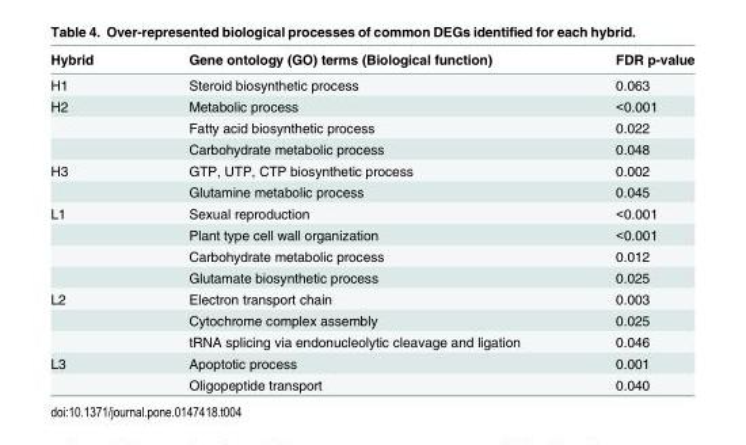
<table><thead><tr><td>Hybrid</td><td>Gene ontology (GO) terms (Biological function)</td><td>FDR p-value</td></tr></thead><tbody><tr><td>H1</td><td>Steroid biosynthetic process</td><td>0.063</td></tr><tr><td rowspan="3">H2</td><td>Metabolic process</td><td>&lt;0.001</td></tr><tr><td>Fatty acid biosynthetic process</td><td>0.022</td></tr><tr><td>Carbohydrate metabolic process</td><td>0.048</td></tr><tr><td rowspan="2">H3</td><td>GTP, UTP, CTP biosynthetic process</td><td>0.002</td></tr><tr><td>Glutamine metabolic process</td><td>0.045</td></tr><tr><td rowspan="4">L1</td><td>Sexual reproduction</td><td>&lt;0.001</td></tr><tr><td>Plant type cell wall organization</td><td>&lt;0.001</td></tr><tr><td>Carbohydrate metabolic process</td><td>0.012</td></tr><tr><td>Glutamate biosynthetic process</td><td>0.025</td></tr><tr><td rowspan="3">L2</td><td>Electron transport chain</td><td>0.003</td></tr><tr><td>Cytochrome complex assembly</td><td>0.025</td></tr><tr><td>tRNA splicing via endonucleolytic cleavage and ligation</td><td>0.046</td></tr><tr><td rowspan="2">L3</td><td>Apoptotic process</td><td>0.001</td></tr><tr><td>Oligopeptide transport</td><td>0.040</td></tr></tbody></table>